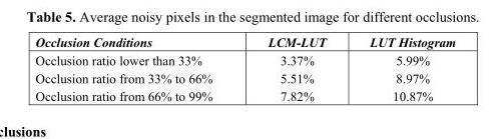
<table><thead><tr><td>Occlusion Conditions</td><td>LCM-LUT</td><td>LUT Histogram</td></tr></thead><tbody><tr><td>Occlusion ratio lower than 33%</td><td>3.37%</td><td>5.99%</td></tr><tr><td>Occlusion ratio from 33% to 66%</td><td>5.51%</td><td>8.97%</td></tr><tr><td>Occlusion ratio from 66% to 99%</td><td>7.82%</td><td>10.87%</td></tr></tbody></table>